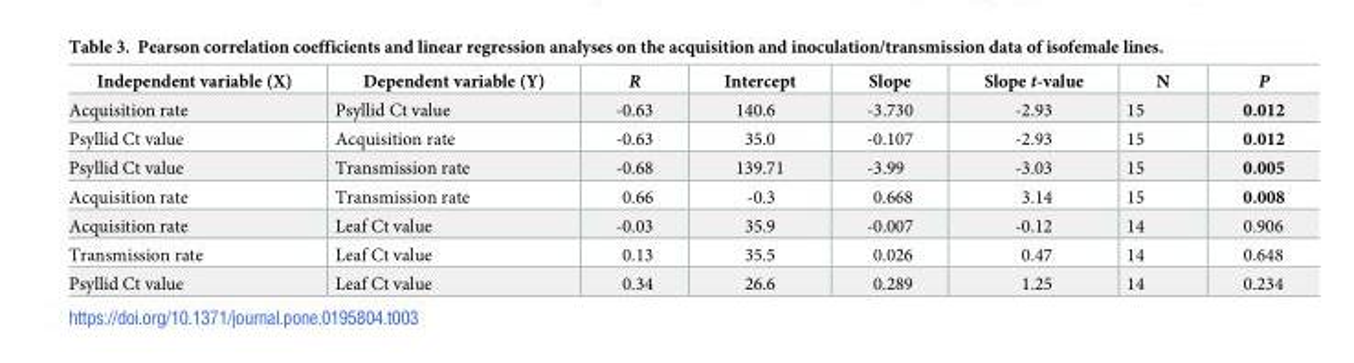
<table><thead><tr><td>Independent variable (X)</td><td>Dependent variable (Y)</td><td>R</td><td>Intercept</td><td>Slope</td><td>Slope t-value</td><td>N</td><td>P</td></tr></thead><tbody><tr><td>Acquisition rate</td><td>Psyllid Ct value</td><td>-0.63</td><td>140.6</td><td>-3.730</td><td>-2.93</td><td>15</td><td>0.012</td></tr><tr><td>Psyllid Ct value</td><td>Acquisition rate</td><td>-0.63</td><td>35.0</td><td>-0.107</td><td>-2.93</td><td>15</td><td>0.012</td></tr><tr><td>Psyllid Ct value</td><td>Transmission rate</td><td>-0.68</td><td>139.71</td><td>-3.99</td><td>-3.03</td><td>15</td><td>0.005</td></tr><tr><td>Acquisition rate</td><td>Transmission rate</td><td>0.66</td><td>-0.3</td><td>0.668</td><td>3.14</td><td>15</td><td>0.008</td></tr><tr><td>Acquisition rate</td><td>Leaf Ct value</td><td>-0.03</td><td>35.9</td><td>-0.007</td><td>-0.12</td><td>14</td><td>0.906</td></tr><tr><td>Transmission rate</td><td>Leaf Ct value</td><td>0.13</td><td>35.5</td><td>0.026</td><td>0.47</td><td>14</td><td>0.648</td></tr><tr><td>Psyllid Ct value</td><td>Leaf Ct value</td><td>0.34</td><td>26.6</td><td>0.289</td><td>1.25</td><td>14</td><td>0.234</td></tr></tbody></table>